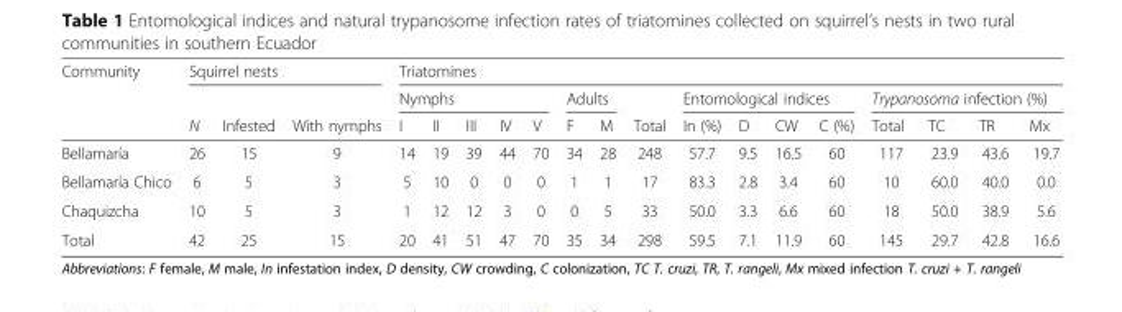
<table><thead><tr><td rowspan="3">Community</td><td colspan="3">Squirrel nests</td><td colspan="16">Triatomines</td></tr><tr><td rowspan="2">N</td><td rowspan="2">Infested</td><td rowspan="2">With nymphs</td><td colspan="5">Nymphs</td><td colspan="2">Adults</td><td rowspan="2">Total</td><td colspan="4">Entomological indices</td><td colspan="4">Trypanosoma infection (%)</td></tr><tr><td>I</td><td>II</td><td>III</td><td>IV</td><td>V</td><td>F</td><td>M</td><td>In (%)</td><td>D</td><td>CW</td><td>C (%)</td><td>Total</td><td>TC</td><td>TR</td><td>Mx</td></tr></thead><tbody><tr><td>Bellamaría</td><td>26</td><td>15</td><td>9</td><td>14</td><td>19</td><td>39</td><td>44</td><td>70</td><td>34</td><td>28</td><td>248</td><td>57.7</td><td>9.5</td><td>16.5</td><td>60</td><td>117</td><td>23.9</td><td>43.6</td><td>19.7</td></tr><tr><td>Bellamaría Chico</td><td>6</td><td>5</td><td>3</td><td>5</td><td>10</td><td>0</td><td>0</td><td>0</td><td>1</td><td>1</td><td>17</td><td>83.3</td><td>2.8</td><td>3.4</td><td>60</td><td>10</td><td>60.0</td><td>40.0</td><td>0.0</td></tr><tr><td>Chaquizcha</td><td>10</td><td>5</td><td>3</td><td>1</td><td>12</td><td>12</td><td>3</td><td>0</td><td>0</td><td>5</td><td>33</td><td>50.0</td><td>3.3</td><td>6.6</td><td>60</td><td>18</td><td>50.0</td><td>38.9</td><td>5.6</td></tr><tr><td>Total</td><td>42</td><td>25</td><td>15</td><td>20</td><td>41</td><td>51</td><td>47</td><td>70</td><td>35</td><td>34</td><td>298</td><td>59.5</td><td>7.1</td><td>11.9</td><td>60</td><td>145</td><td>29.7</td><td>42.8</td><td>16.6</td></tr></tbody></table>